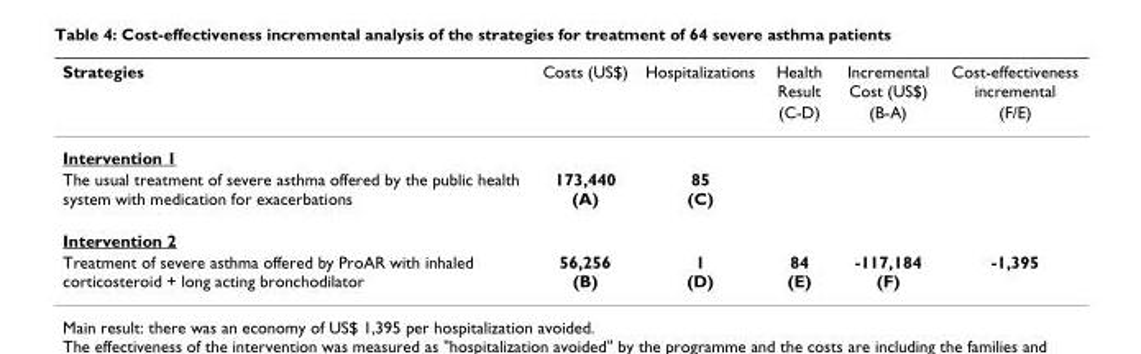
<table><thead><tr><td rowspan="2">Strategies</td><td rowspan="2">Costs (US$)</td><td rowspan="2">Hospitalizations</td><td rowspan="2">Health Result (C-D)</td><td rowspan="2">Incremental Cost (US$) (B-A)</td><td rowspan="2">Cost-effectiveness incremental (F/E)</td></tr><tr></tr></thead><tbody><tr><td colspan="6">Intervention 1</td></tr><tr><td>The usual treatment of severe asthma offered by the public health system with medication for exacerbations</td><td>173,440 (A)</td><td>85 (C)</td><td></td><td></td><td></td></tr><tr><td colspan="6">Intervention 2</td></tr><tr><td>Treatment of severe asthma offered by ProAR with inhaled corticosteroid + long acting bronchodilator</td><td>56,256 (B)</td><td>1 (D)</td><td>84 (E)</td><td>-117,184 (F)</td><td>-1,395</td></tr></tbody></table>